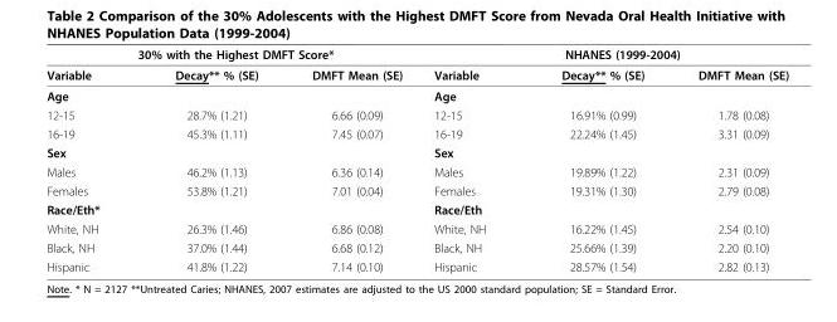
<table><thead><tr><td colspan="3">30% with the Highest DMFT Score*</td><td colspan="3">NHANES (1999-2004)</td></tr><tr><td>Variable</td><td>Decay** % (SE)</td><td>DMFT Mean (SE)</td><td>Variable</td><td>Decay** % (SE)</td><td>DMFT Mean (SE)</td></tr></thead><tbody><tr><td>Age</td><td></td><td></td><td>Age</td><td></td><td></td></tr><tr><td>12-15</td><td>28.7% (1.21)</td><td>6.66 (0.09)</td><td>12-15</td><td>16.91% (0.99)</td><td>1.78 (0.08)</td></tr><tr><td>16-19</td><td>45.3% (1.11)</td><td>7.45 (0.07)</td><td>16-19</td><td>22.24% (1.45)</td><td>3.31 (0.09)</td></tr><tr><td>Sex</td><td></td><td></td><td>Sex</td><td></td><td></td></tr><tr><td>Males</td><td>46.2% (1.13)</td><td>6.36 (0.14)</td><td>Males</td><td>19.89% (1.22)</td><td>2.31 (0.09)</td></tr><tr><td>Females</td><td>53.8% (1.21)</td><td>7.01 (0.04)</td><td>Females</td><td>19.31% (1.30)</td><td>2.79 (0.08)</td></tr><tr><td>Race/Eth*</td><td></td><td></td><td>Race/Eth</td><td></td><td></td></tr><tr><td>White, NH</td><td>26.3% (1.46)</td><td>6.86 (0.08)</td><td>White, NH</td><td>16.22% (1.45)</td><td>2.54 (0.10)</td></tr><tr><td>Black, NH</td><td>37.0% (1.44)</td><td>6.68 (0.12)</td><td>Black, NH</td><td>25.66% (1.39)</td><td>2.20 (0.10)</td></tr><tr><td>Hispanic</td><td>41.8% (1.22)</td><td>7.14 (0.10)</td><td>Hispanic</td><td>28.57% (1.54)</td><td>2.82 (0.13)</td></tr></tbody></table>